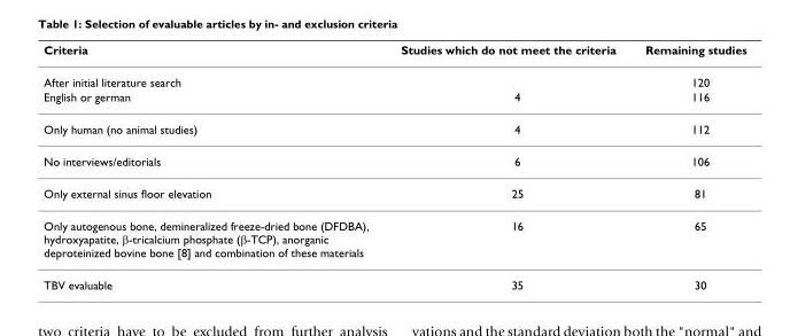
<table><thead><tr><td>Criteria</td><td>Studies which do not meet the criteria</td><td>Remaining studies</td></tr></thead><tbody><tr><td>After initial literature search</td><td></td><td>120</td></tr><tr><td>English or german</td><td>4</td><td>116</td></tr><tr><td>Only human (no animal studies)</td><td>4</td><td>112</td></tr><tr><td>No interviews/editorials</td><td>6</td><td>106</td></tr><tr><td>Only external sinus floor elevation</td><td>25</td><td>81</td></tr><tr><td>Only autogenous bone, demineralized freeze-dried bone (DFDBA), hydroxyapatite, β-tricalcium phosphate (β-TCP), anorganic deproteinized bovine bone [8] and combination of these materials</td><td>16</td><td>65</td></tr><tr><td>TBV evaluable</td><td>35</td><td>30</td></tr></tbody></table>